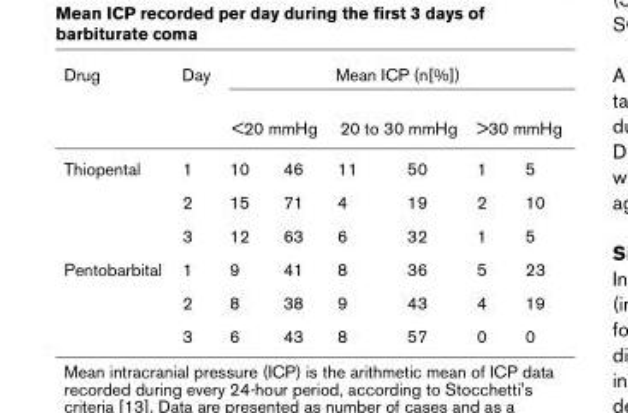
<table><thead><tr><td rowspan="3">Drug Thiopental</td><td rowspan="3">Day 1</td><td colspan="6">Mean ICP (n[%])</td></tr><tr><td colspan="2">&lt;20 mmHg</td><td colspan="2">20 to 30 mmHg</td><td colspan="2">&gt;30 mmHg</td></tr><tr><td>10</td><td>46</td><td>11</td><td>50</td><td>1</td><td>5</td></tr></thead><tbody><tr><td></td><td>2</td><td>15</td><td>71</td><td>4</td><td>19</td><td>2</td><td>10</td></tr><tr><td></td><td>3</td><td>12</td><td>63</td><td>6</td><td>32</td><td>1</td><td>5</td></tr><tr><td rowspan="3">Pentobarbital</td><td>1</td><td>9</td><td>41</td><td>8</td><td>36</td><td>5</td><td>23</td></tr><tr><td>2</td><td>8</td><td>38</td><td>9</td><td>43</td><td>4</td><td>19</td></tr><tr><td>3</td><td>6</td><td>43</td><td>8</td><td>57</td><td>0</td><td>0</td></tr></tbody></table>